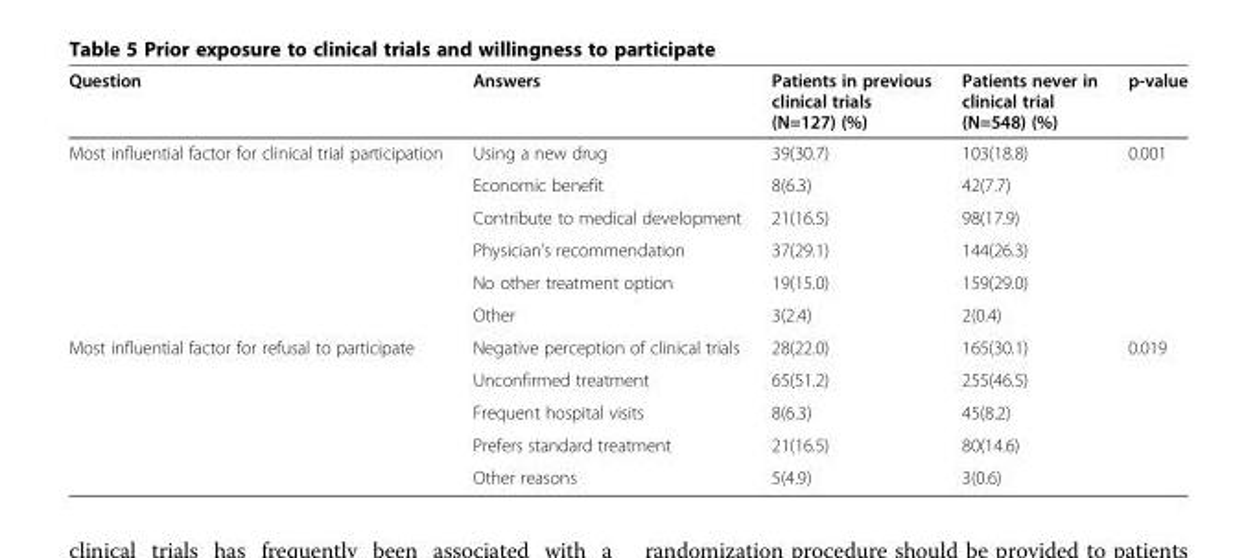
<table><thead><tr><td>Question</td><td>Answers</td><td>Patients in previous clinical trials (N=127) (%)</td><td>Patients never in clinical trial (N=548) (%)</td><td>p-value</td></tr></thead><tbody><tr><td rowspan="6">Most influential factor for clinical trial participation</td><td>Using a new drug</td><td>39(30.7)</td><td>103(18.8)</td><td>0.001</td></tr><tr><td>Economic benefit</td><td>8(6.3)</td><td>42(7.7)</td><td rowspan="5"></td></tr><tr><td>Contribute to medical development</td><td>21(16.5)</td><td>98(17.9)</td></tr><tr><td>Physician’s recommendation</td><td>37(29.1)</td><td>144(26.3)</td></tr><tr><td>No other treatment option</td><td>19(15.0)</td><td>159(29.0)</td></tr><tr><td>Other</td><td>3(2.4)</td><td>2(0.4)</td></tr><tr><td rowspan="5">Most influential factor for refusal to participate</td><td>Negative perception of clinical trials</td><td>28(22.0)</td><td>165(30.1)</td><td>0.019</td></tr><tr><td>Unconfirmed treatment</td><td>65(51.2)</td><td>255(46.5)</td><td rowspan="4"></td></tr><tr><td>Frequent hospital visits</td><td>8(6.3)</td><td>45(8.2)</td></tr><tr><td>Prefers standard treatment</td><td>21(16.5)</td><td>80(14.6)</td></tr><tr><td>Other reasons</td><td>5(4.9)</td><td>3(0.6)</td></tr></tbody></table>